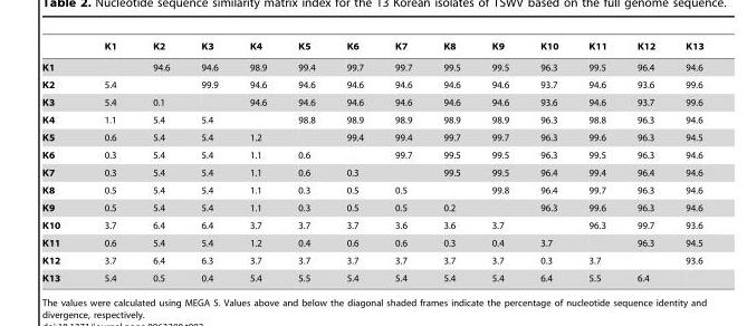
<table><thead><tr><td></td><td>K1</td><td>K2</td><td>K3</td><td>K4</td><td>K5</td><td>K6</td><td>K7</td><td>K8</td><td>K9</td><td>K10</td><td>K11</td><td>K12</td><td>K13</td></tr></thead><tbody><tr><td>K1</td><td></td><td>94.6</td><td>94.6</td><td>98.9</td><td>99.4</td><td>99.7</td><td>99.7</td><td>99.5</td><td>99.5</td><td>96.3</td><td>99.5</td><td>96.4</td><td>94.6</td></tr><tr><td>K2</td><td>5.4</td><td></td><td>99.9</td><td>94.6</td><td>94.6</td><td>94.6</td><td>94.6</td><td>94.6</td><td>94.6</td><td>93.7</td><td>94.6</td><td>93.6</td><td>99.6</td></tr><tr><td>K3</td><td>5.4</td><td>0.1</td><td></td><td>94.6</td><td>94.6</td><td>94.6</td><td>94.6</td><td>94.6</td><td>94.6</td><td>93.6</td><td>94.6</td><td>93.7</td><td>99.6</td></tr><tr><td>K4</td><td>1.1</td><td>5.4</td><td>5.4</td><td></td><td>98.8</td><td>98.9</td><td>98.9</td><td>98.9</td><td>98.9</td><td>96.3</td><td>98.8</td><td>96.3</td><td>94.6</td></tr><tr><td>K5</td><td>0.6</td><td>5.4</td><td>5.4</td><td>1.2</td><td></td><td>99.4</td><td>99.4</td><td>99.7</td><td>99.7</td><td>96.3</td><td>99.6</td><td>96.3</td><td>94.5</td></tr><tr><td>K6</td><td>0.3</td><td>5.4</td><td>5.4</td><td>1.1</td><td>0.6</td><td></td><td>99.7</td><td>99.5</td><td>99.5</td><td>96.3</td><td>99.5</td><td>96.3</td><td>94.6</td></tr><tr><td>K7</td><td>0.3</td><td>5.4</td><td>5.4</td><td>1.1</td><td>0.6</td><td>0.3</td><td></td><td>99.5</td><td>99.5</td><td>96.4</td><td>99.4</td><td>96.4</td><td>94.6</td></tr><tr><td>K8</td><td>0.5</td><td>5.4</td><td>5.4</td><td>1.1</td><td>0.3</td><td>0.5</td><td>0.5</td><td></td><td>99.8</td><td>96.4</td><td>99.7</td><td>96.3</td><td>94.6</td></tr><tr><td>K9</td><td>0.5</td><td>5.4</td><td>5.4</td><td>1.1</td><td>0.3</td><td>0.5</td><td>0.5</td><td>0.2</td><td></td><td>96.3</td><td>99.6</td><td>96.3</td><td>94.6</td></tr><tr><td>K10</td><td>3.7</td><td>6.4</td><td>6.4</td><td>3.7</td><td>3.7</td><td>3.7</td><td>3.6</td><td>3.6</td><td>3.7</td><td></td><td>96.3</td><td>99.7</td><td>93.6</td></tr><tr><td>K11</td><td>0.6</td><td>5.4</td><td>5.4</td><td>1.2</td><td>0.4</td><td>0.6</td><td>0.6</td><td>0.3</td><td>0.4</td><td>3.7</td><td></td><td>96.3</td><td>94.5</td></tr><tr><td>K12</td><td>3.7</td><td>6.4</td><td>6.3</td><td>3.7</td><td>3.7</td><td>3.7</td><td>3.7</td><td>3.7</td><td>3.7</td><td>0.3</td><td>3.7</td><td></td><td>93.6</td></tr><tr><td>K13</td><td>5.4</td><td>0.5</td><td>0.4</td><td>5.4</td><td>5.5</td><td>5.4</td><td>5.4</td><td>5.4</td><td>5.4</td><td>6.4</td><td>5.5</td><td>6.4</td><td></td></tr></tbody></table>